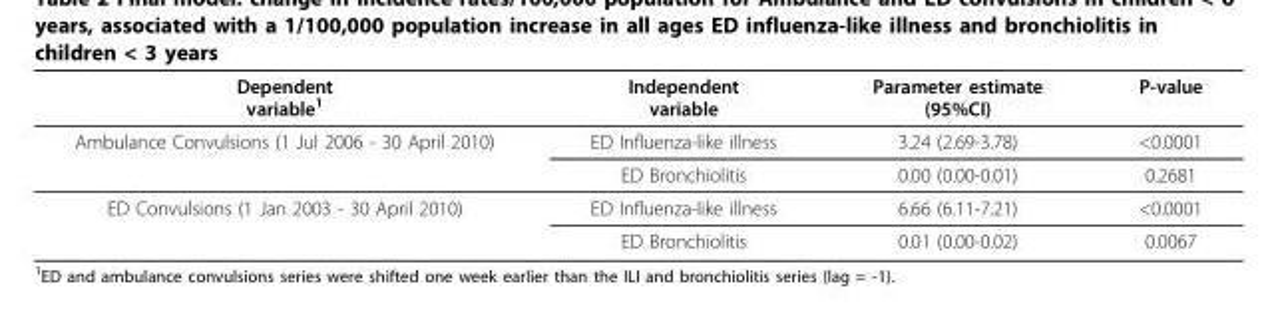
<table><thead><tr><td>Dependent variable<sup>1</sup></td><td>Independent variable</td><td>Parameter estimate (95%CI)</td><td>P-value</td></tr></thead><tbody><tr><td rowspan="2">Ambulance Convulsions (1 Jul 2006 - 30 April 2010)</td><td>ED Influenza-like illness</td><td>3.24 (2.69-3.78)</td><td>&lt;0.0001</td></tr><tr><td>ED Bronchiolitis</td><td>0.00 (0.00-0.01)</td><td>0.2681</td></tr><tr><td rowspan="2">ED Convulsions (1 Jan 2003 - 30 April 2010)</td><td>ED Influenza-like illness</td><td>6.66 (6.11-7.21)</td><td>&lt;0.0001</td></tr><tr><td>ED Bronchiolitis</td><td>0.01 (0.00-0.02)</td><td>0.0067</td></tr></tbody></table>